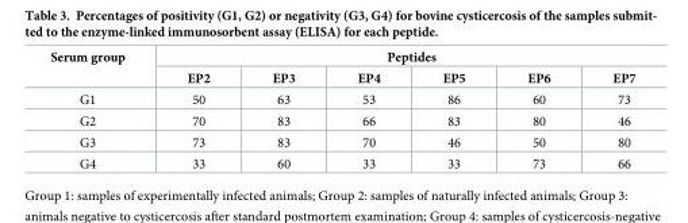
<table><thead><tr><td rowspan="2">Serum group</td><td colspan="6">Peptides</td></tr><tr><td>EP2</td><td>EP3</td><td>EP4</td><td>EP5</td><td>EP6</td><td>EP7</td></tr></thead><tbody><tr><td>G1</td><td>50</td><td>63</td><td>53</td><td>86</td><td>60</td><td>73</td></tr><tr><td>G2</td><td>70</td><td>83</td><td>66</td><td>83</td><td>80</td><td>46</td></tr><tr><td>G3</td><td>73</td><td>83</td><td>70</td><td>46</td><td>50</td><td>80</td></tr><tr><td>G4</td><td>33</td><td>60</td><td>33</td><td>33</td><td>73</td><td>66</td></tr></tbody></table>